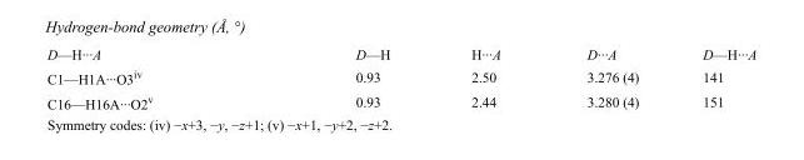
<table><tbody><tr><td>D—H···A</td><td>D—H</td><td>H···A</td><td>D···A</td><td>D—H···A</td></tr><tr><td>C1—H1A···O3<sup>iv</sup></td><td>0.93</td><td>2.50</td><td>3.276 (4)</td><td>141</td></tr><tr><td>C16—H16A···O2<sup>v</sup></td><td>0.93</td><td>2.44</td><td>3.280 (4)</td><td>151</td></tr></tbody></table>